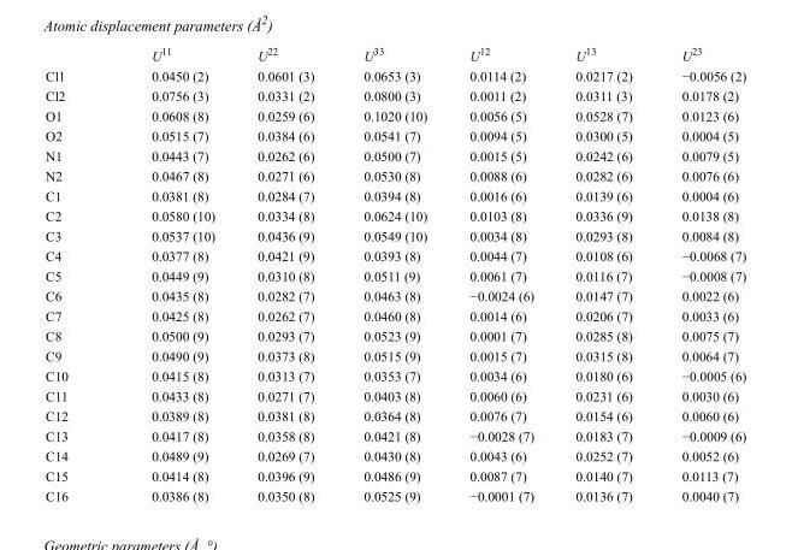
<table><thead><tr><td></td><td>U<sup>11</sup></td><td>U<sup>22</sup></td><td>U<sup>33</sup></td><td>U<sup>12</sup></td><td>U<sup>13</sup></td><td>U<sup>23</sup></td></tr></thead><tbody><tr><td>Cl1</td><td>0.0450 (2)</td><td>0.0601 (3)</td><td>0.0653 (3)</td><td>0.0114 (2)</td><td>0.0217 (2)</td><td>−0.0056 (2)</td></tr><tr><td>Cl2</td><td>0.0756 (3)</td><td>0.0331 (2)</td><td>0.0800 (3)</td><td>0.0011 (2)</td><td>0.0311 (3)</td><td>0.0178 (2)</td></tr><tr><td>O1</td><td>0.0608 (8)</td><td>0.0259 (6)</td><td>0.1020 (10)</td><td>0.0056 (5)</td><td>0.0528 (7)</td><td>0.0123 (6)</td></tr><tr><td>O2</td><td>0.0515 (7)</td><td>0.0384 (6)</td><td>0.0541 (7)</td><td>0.0094 (5)</td><td>0.0300 (5)</td><td>0.0004 (5)</td></tr><tr><td>N1</td><td>0.0443 (7)</td><td>0.0262 (6)</td><td>0.0500 (7)</td><td>0.0015 (5)</td><td>0.0242 (6)</td><td>0.0079 (5)</td></tr><tr><td>N2</td><td>0.0467 (8)</td><td>0.0271 (6)</td><td>0.0530 (8)</td><td>0.0088 (6)</td><td>0.0282 (6)</td><td>0.0076 (6)</td></tr><tr><td>C1</td><td>0.0381 (8)</td><td>0.0284 (7)</td><td>0.0394 (8)</td><td>0.0016 (6)</td><td>0.0139 (6)</td><td>0.0004 (6)</td></tr><tr><td>C2</td><td>0.0580 (10)</td><td>0.0334 (8)</td><td>0.0624 (10)</td><td>0.0103 (8)</td><td>0.0336 (9)</td><td>0.0138 (8)</td></tr><tr><td>C3</td><td>0.0537 (10)</td><td>0.0436 (9)</td><td>0.0549 (10)</td><td>0.0034 (8)</td><td>0.0293 (8)</td><td>0.0084 (8)</td></tr><tr><td>C4</td><td>0.0377 (8)</td><td>0.0421 (9)</td><td>0.0393 (8)</td><td>0.0044 (7)</td><td>0.0108 (6)</td><td>−0.0068 (7)</td></tr><tr><td>C5</td><td>0.0449 (9)</td><td>0.0310 (8)</td><td>0.0511 (9)</td><td>0.0061 (7)</td><td>0.0116 (7)</td><td>−0.0008 (7)</td></tr><tr><td>C6</td><td>0.0435 (8)</td><td>0.0282 (7)</td><td>0.0463 (8)</td><td>−0.0024 (6)</td><td>0.0147 (7)</td><td>0.0022 (6)</td></tr><tr><td>C7</td><td>0.0425 (8)</td><td>0.0262 (7)</td><td>0.0460 (8)</td><td>0.0014 (6)</td><td>0.0206 (7)</td><td>0.0033 (6)</td></tr><tr><td>C8</td><td>0.0500 (9)</td><td>0.0293 (7)</td><td>0.0523 (9)</td><td>0.0001 (7)</td><td>0.0285 (8)</td><td>0.0075 (7)</td></tr><tr><td>C9</td><td>0.0490 (9)</td><td>0.0373 (8)</td><td>0.0515 (9)</td><td>0.0015 (7)</td><td>0.0315 (8)</td><td>0.0064 (7)</td></tr><tr><td>C10</td><td>0.0415 (8)</td><td>0.0313 (7)</td><td>0.0353 (7)</td><td>0.0034 (6)</td><td>0.0180 (6)</td><td>−0.0005 (6)</td></tr><tr><td>C11</td><td>0.0433 (8)</td><td>0.0271 (7)</td><td>0.0403 (8)</td><td>0.0060 (6)</td><td>0.0231 (6)</td><td>0.0030 (6)</td></tr><tr><td>C12</td><td>0.0389 (8)</td><td>0.0381 (8)</td><td>0.0364 (8)</td><td>0.0076 (7)</td><td>0.0154 (6)</td><td>0.0060 (6)</td></tr><tr><td>C13</td><td>0.0417 (8)</td><td>0.0358 (8)</td><td>0.0421 (8)</td><td>−0.0028 (7)</td><td>0.0183 (7)</td><td>−0.0009 (6)</td></tr><tr><td>C14</td><td>0.0489 (9)</td><td>0.0269 (7)</td><td>0.0430 (8)</td><td>0.0043 (6)</td><td>0.0252 (7)</td><td>0.0052 (6)</td></tr><tr><td>C15</td><td>0.0414 (8)</td><td>0.0396 (9)</td><td>0.0486 (9)</td><td>0.0087 (7)</td><td>0.0140 (7)</td><td>0.0113 (7)</td></tr><tr><td>C16</td><td>0.0386 (8)</td><td>0.0350 (8)</td><td>0.0525 (9)</td><td>−0.0001 (7)</td><td>0.0136 (7)</td><td>0.0040 (7)</td></tr></tbody></table>